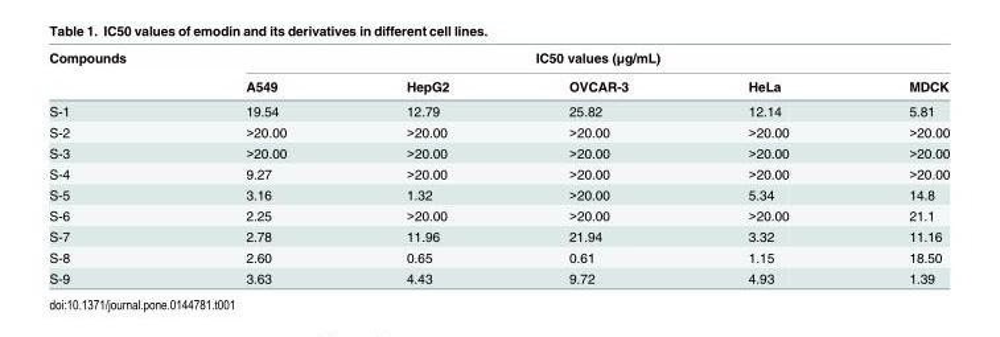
<table><thead><tr><td rowspan="2">Compounds</td><td colspan="5">IC50 values (μg/mL)</td></tr><tr><td>A549</td><td>HepG2</td><td>OVCAR-3</td><td>HeLa</td><td>MDCK</td></tr></thead><tbody><tr><td>S-1</td><td>19.54</td><td>12.79</td><td>25.82</td><td>12.14</td><td>5.81</td></tr><tr><td>S-2</td><td>&gt;20.00</td><td>&gt;20.00</td><td>&gt;20.00</td><td>&gt;20.00</td><td>&gt;20.00</td></tr><tr><td>S-3</td><td>&gt;20.00</td><td>&gt;20.00</td><td>&gt;20.00</td><td>&gt;20.00</td><td>&gt;20.00</td></tr><tr><td>S-4</td><td>9.27</td><td>&gt;20.00</td><td>&gt;20.00</td><td>&gt;20.00</td><td>&gt;20.00</td></tr><tr><td>S-5</td><td>3.16</td><td>1.32</td><td>&gt;20.00</td><td>5.34</td><td>14.8</td></tr><tr><td>S-6</td><td>2.25</td><td>&gt;20.00</td><td>&gt;20.00</td><td>&gt;20.00</td><td>21.1</td></tr><tr><td>S-7</td><td>2.78</td><td>11.96</td><td>21.94</td><td>3.32</td><td>11.16</td></tr><tr><td>S-8</td><td>2.60</td><td>0.65</td><td>0.61</td><td>1.15</td><td>18.50</td></tr><tr><td>S-9</td><td>3.63</td><td>4.43</td><td>9.72</td><td>4.93</td><td>1.39</td></tr></tbody></table>